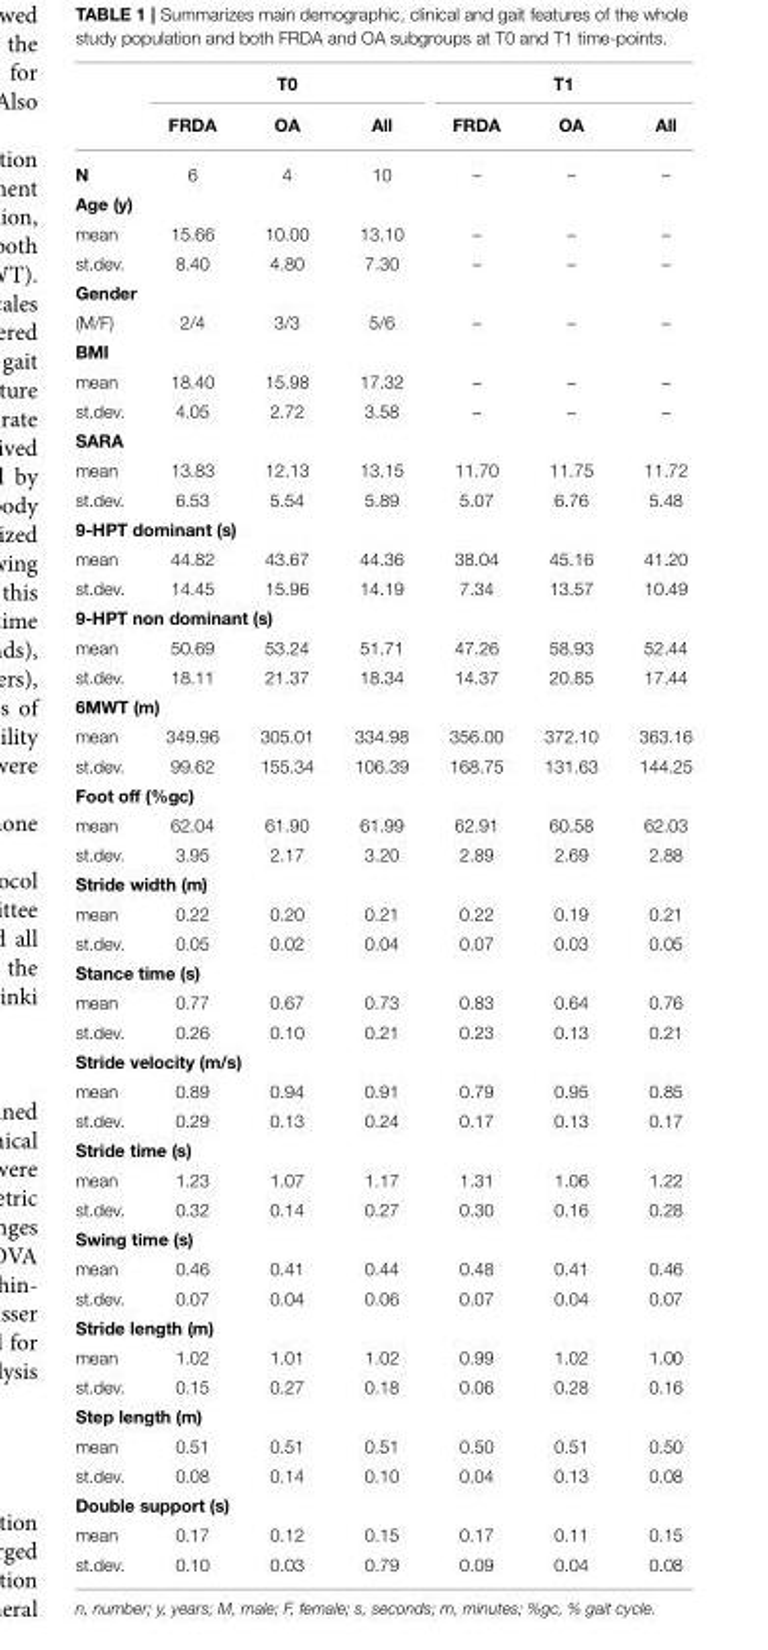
<table><thead><tr><td rowspan="2"></td><td colspan="3">T0</td><td colspan="3">T1</td></tr><tr><td>FRDA</td><td>OA</td><td>All</td><td>FRDA</td><td>OA</td><td>All</td></tr></thead><tbody><tr><td>N</td><td>6</td><td>4</td><td>10</td><td>–</td><td>–</td><td>–</td></tr><tr><td colspan="7">Age (y)</td></tr><tr><td>mean</td><td>15.66</td><td>10.00</td><td>13.10</td><td>–</td><td>–</td><td>–</td></tr><tr><td>st.dev.</td><td>8.40</td><td>4.80</td><td>7.30</td><td>–</td><td>–</td><td>–</td></tr><tr><td colspan="7">Gender</td></tr><tr><td>(M/F)</td><td>2/4</td><td>3/3</td><td>5/6</td><td>–</td><td>–</td><td>–</td></tr><tr><td colspan="7">BMI</td></tr><tr><td>mean</td><td>18.40</td><td>15.98</td><td>17.32</td><td>–</td><td>–</td><td>–</td></tr><tr><td>st.dev.</td><td>4.05</td><td>2.72</td><td>3.58</td><td>–</td><td>–</td><td>–</td></tr><tr><td colspan="7">SARA</td></tr><tr><td>mean</td><td>13.83</td><td>12.13</td><td>13.15</td><td>11.70</td><td>11.75</td><td>11.72</td></tr><tr><td>st.dev.</td><td>6.53</td><td>5.54</td><td>5.89</td><td>5.07</td><td>6.76</td><td>5.48</td></tr><tr><td colspan="7">9-HPT dominant (s)</td></tr><tr><td>mean</td><td>44.82</td><td>43.67</td><td>44.36</td><td>38.04</td><td>45.16</td><td>41.20</td></tr><tr><td>st.dev.</td><td>14.45</td><td>15.96</td><td>14.19</td><td>7.34</td><td>13.57</td><td>10.49</td></tr><tr><td colspan="7">9-HPT non dominant (s)</td></tr><tr><td>mean</td><td>50.69</td><td>53.24</td><td>51.71</td><td>47.26</td><td>58.93</td><td>52.44</td></tr><tr><td>st.dev.</td><td>18.11</td><td>21.37</td><td>18.34</td><td>14.37</td><td>20.85</td><td>17.44</td></tr><tr><td colspan="7">6MWT (m)</td></tr><tr><td>mean</td><td>349.96</td><td>305.01</td><td>334.98</td><td>356.00</td><td>372.10</td><td>363.16</td></tr><tr><td>st.dev.</td><td>99.62</td><td>155.34</td><td>106.39</td><td>168.75</td><td>131.63</td><td>144.25</td></tr><tr><td colspan="7">Foot off (%gc)</td></tr><tr><td>mean</td><td>62.04</td><td>61.90</td><td>61.99</td><td>62.91</td><td>60.58</td><td>62.03</td></tr><tr><td>st.dev.</td><td>3.95</td><td>2.17</td><td>3.20</td><td>2.89</td><td>2.69</td><td>2.88</td></tr><tr><td colspan="7">Stride width (m)</td></tr><tr><td>mean</td><td>0.22</td><td>0.20</td><td>0.21</td><td>0.22</td><td>0.19</td><td>0.21</td></tr><tr><td>st.dev.</td><td>0.05</td><td>0.02</td><td>0.04</td><td>0.07</td><td>0.03</td><td>0.05</td></tr><tr><td colspan="7">Stance time (s)</td></tr><tr><td>mean</td><td>0.77</td><td>0.67</td><td>0.73</td><td>0.83</td><td>0.64</td><td>0.76</td></tr><tr><td>st.dev.</td><td>0.26</td><td>0.10</td><td>0.21</td><td>0.23</td><td>0.13</td><td>0.21</td></tr><tr><td colspan="7">Stride velocity (m/s)</td></tr><tr><td>mean</td><td>0.89</td><td>0.94</td><td>0.91</td><td>0.79</td><td>0.95</td><td>0.85</td></tr><tr><td>st.dev.</td><td>0.29</td><td>0.13</td><td>0.24</td><td>0.17</td><td>0.13</td><td>0.17</td></tr><tr><td colspan="7">Stride time (s)</td></tr><tr><td>mean</td><td>1.23</td><td>1.07</td><td>1.17</td><td>1.31</td><td>1.06</td><td>1.22</td></tr><tr><td>st.dev.</td><td>0.32</td><td>0.14</td><td>0.27</td><td>0.30</td><td>0.16</td><td>0.28</td></tr><tr><td colspan="7">Swing time (s)</td></tr><tr><td>mean</td><td>0.46</td><td>0.41</td><td>0.44</td><td>0.48</td><td>0.41</td><td>0.46</td></tr><tr><td>st.dev.</td><td>0.07</td><td>0.04</td><td>0.06</td><td>0.07</td><td>0.04</td><td>0.07</td></tr><tr><td colspan="7">Stride length (m)</td></tr><tr><td>mean</td><td>1.02</td><td>1.01</td><td>1.02</td><td>0.99</td><td>1.02</td><td>1.00</td></tr><tr><td>st.dev.</td><td>0.15</td><td>0.27</td><td>0.18</td><td>0.06</td><td>0.28</td><td>0.16</td></tr><tr><td colspan="7">Step length (m)</td></tr><tr><td>mean</td><td>0.51</td><td>0.51</td><td>0.51</td><td>0.50</td><td>0.51</td><td>0.50</td></tr><tr><td>st.dev.</td><td>0.08</td><td>0.14</td><td>0.10</td><td>0.04</td><td>0.13</td><td>0.08</td></tr><tr><td colspan="7">Double support (s)</td></tr><tr><td>mean</td><td>0.17</td><td>0.12</td><td>0.15</td><td>0.17</td><td>0.11</td><td>0.15</td></tr><tr><td>st.dev.</td><td>0.10</td><td>0.03</td><td>0.79</td><td>0.09</td><td>0.04</td><td>0.08</td></tr></tbody></table>